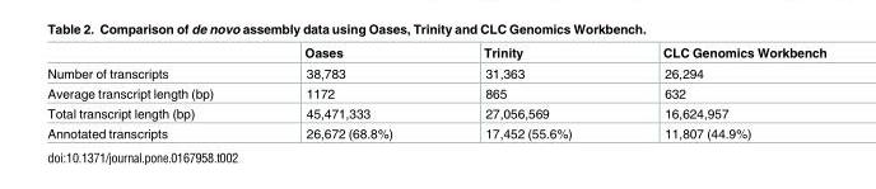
<table><thead><tr><td></td><td>Oases</td><td>Trinity</td><td>CLC Genomics Workbench</td></tr></thead><tbody><tr><td>Number of transcripts</td><td>38,783</td><td>31,363</td><td>26,294</td></tr><tr><td>Average transcript length (bp)</td><td>1172</td><td>865</td><td>632</td></tr><tr><td>Total transcript length (bp)</td><td>45,471,333</td><td>27,056,569</td><td>16,624,957</td></tr><tr><td>Annotated transcripts</td><td>26,672 (68.8%)</td><td>17,452 (55.6%)</td><td>11,807 (44.9%)</td></tr></tbody></table>